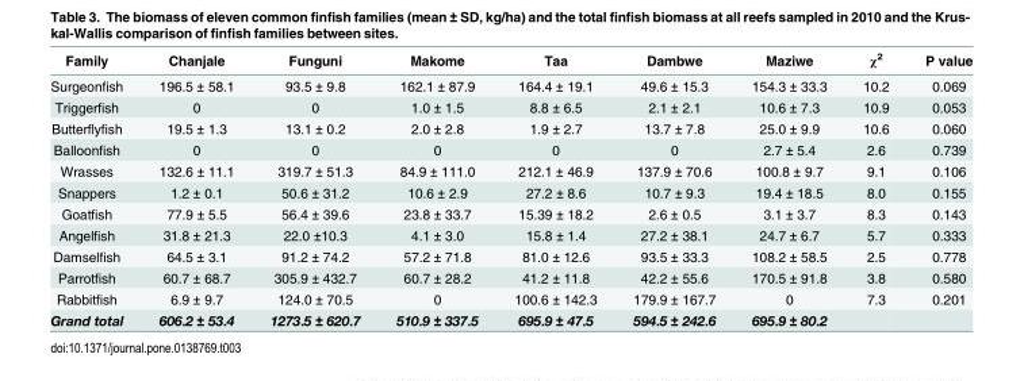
<table><thead><tr><td>Family</td><td>Chanjale</td><td>Funguni</td><td>Makome</td><td>Taa</td><td>Dambwe</td><td>Maziwe</td><td>χ<sup>2</sup></td><td>P value</td></tr></thead><tbody><tr><td>Surgeonfish</td><td>196.5 ± 58.1</td><td>93.5 ± 9.8</td><td>162.1 ± 87.9</td><td>164.4 ± 19.1</td><td>49.6 ± 15.3</td><td>154.3 ± 33.3</td><td>10.2</td><td>0.069</td></tr><tr><td>Triggerfish</td><td>0</td><td>0</td><td>1.0 ± 1.5</td><td>8.8 ± 6.5</td><td>2.1 ± 2.1</td><td>10.6 ± 7.3</td><td>10.9</td><td>0.053</td></tr><tr><td>Butterflyfish</td><td>19.5 ± 1.3</td><td>13.1 ± 0.2</td><td>2.0 ± 2.8</td><td>1.9 ± 2.7</td><td>13.7 ± 7.8</td><td>25.0 ± 9.9</td><td>10.6</td><td>0.060</td></tr><tr><td>Balloonfish</td><td>0</td><td>0</td><td>0</td><td>0</td><td>0</td><td>2.7 ± 5.4</td><td>2.6</td><td>0.739</td></tr><tr><td>Wrasses</td><td>132.6 ± 11.1</td><td>319.7 ± 51.3</td><td>84.9 ± 111.0</td><td>212.1 ± 46.9</td><td>137.9 ± 70.6</td><td>100.8 ± 9.7</td><td>9.1</td><td>0.106</td></tr><tr><td>Snappers</td><td>1.2 ± 0.1</td><td>50.6 ± 31.2</td><td>10.6 ± 2.9</td><td>27.2 ± 8.6</td><td>10.7 ± 9.3</td><td>19.4 ± 18.5</td><td>8.0</td><td>0.155</td></tr><tr><td>Goatfish</td><td>77.9 ± 5.5</td><td>56.4 ± 39.6</td><td>23.8 ± 33.7</td><td>15.39 ± 18.2</td><td>2.6 ± 0.5</td><td>3.1 ± 3.7</td><td>8.3</td><td>0.143</td></tr><tr><td>Angelfish</td><td>31.8 ± 21.3</td><td>22.0 ±10.3</td><td>4.1 ± 3.0</td><td>15.8 ± 1.4</td><td>27.2 ± 38.1</td><td>24.7 ± 6.7</td><td>5.7</td><td>0.333</td></tr><tr><td>Damselfish</td><td>64.5 ± 3.1</td><td>91.2 ± 74.2</td><td>57.2 ± 71.8</td><td>81.0 ± 12.6</td><td>93.5 ± 33.3</td><td>108.2 ± 58.5</td><td>2.5</td><td>0.778</td></tr><tr><td>Parrotfish</td><td>60.7 ± 68.7</td><td>305.9 ± 432.7</td><td>60.7 ± 28.2</td><td>41.2 ± 11.8</td><td>42.2 ± 55.6</td><td>170.5 ± 91.8</td><td>3.8</td><td>0.580</td></tr><tr><td>Rabbitfish</td><td>6.9 ± 9.7</td><td>124.0 ± 70.5</td><td>0</td><td>100.6 ± 142.3</td><td>179.9 ± 167.7</td><td>0</td><td>7.3</td><td>0.201</td></tr><tr><td>Grand total</td><td>606.2 ± 53.4</td><td>1273.5 ± 620.7</td><td>510.9 ± 337.5</td><td>695.9 ± 47.5</td><td>594.5 ± 242.6</td><td>695.9 ± 80.2</td><td></td><td></td></tr></tbody></table>